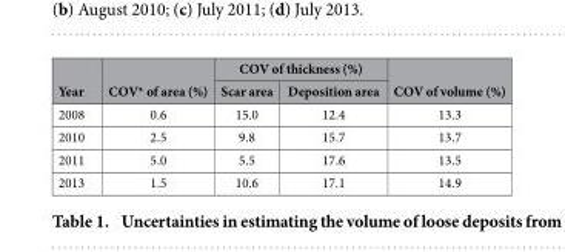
<table><thead><tr><td rowspan="2">Year</td><td rowspan="2">COV* of area (%)</td><td colspan="2">COV of thickness (%)</td><td rowspan="2">COV of volume (%)</td></tr><tr><td>Scar area</td><td>Deposition area</td></tr></thead><tbody><tr><td>2008</td><td>0.6</td><td>15.0</td><td>12.4</td><td>13.3</td></tr><tr><td>2010</td><td>2.5</td><td>9.8</td><td>15.7</td><td>13.7</td></tr><tr><td>2011</td><td>5.0</td><td>5.5</td><td>17.6</td><td>13.5</td></tr><tr><td>2013</td><td>1.5</td><td>10.6</td><td>17.1</td><td>14.9</td></tr></tbody></table>